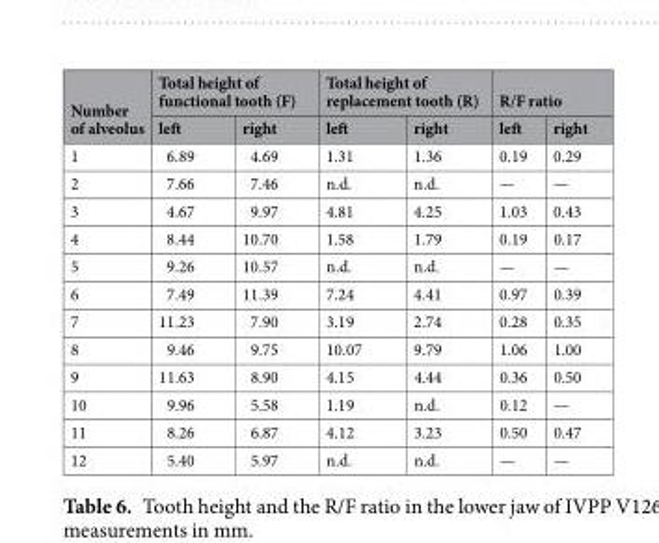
<table><thead><tr><td rowspan="2">Number of alveolus</td><td colspan="2">Total height of functional tooth (F)</td><td colspan="2">Total height of replacement tooth (R)</td><td colspan="2">R/F ratio</td></tr><tr><td>left</td><td>right</td><td>left</td><td>right</td><td>left</td><td>right</td></tr></thead><tbody><tr><td>1</td><td>6.89</td><td>4.69</td><td>1.31</td><td>1.36</td><td>0.19</td><td>0.29</td></tr><tr><td>2</td><td>7.66</td><td>7.46</td><td>n.d.</td><td>n.d.</td><td>—</td><td>—</td></tr><tr><td>3</td><td>4.67</td><td>9.97</td><td>4.81</td><td>4.25</td><td>1.03</td><td>0.43</td></tr><tr><td>4</td><td>8.44</td><td>10.70</td><td>1.58</td><td>1.79</td><td>0.19</td><td>0.17</td></tr><tr><td>5</td><td>9.26</td><td>10.57</td><td>n.d.</td><td>n.d.</td><td>—</td><td>—</td></tr><tr><td>6</td><td>7.49</td><td>11.39</td><td>7.24</td><td>4.41</td><td>0.97</td><td>0.39</td></tr><tr><td>7</td><td>11.23</td><td>7.90</td><td>3.19</td><td>2.74</td><td>0.28</td><td>0.35</td></tr><tr><td>8</td><td>9.46</td><td>9.75</td><td>10.07</td><td>9.79</td><td>1.06</td><td>1.00</td></tr><tr><td>9</td><td>11.63</td><td>8.90</td><td>4.15</td><td>4.44</td><td>0.36</td><td>0.50</td></tr><tr><td>10</td><td>9.96</td><td>5.58</td><td>1.19</td><td>n.d.</td><td>0.12</td><td>—</td></tr><tr><td>11</td><td>8.26</td><td>6.87</td><td>4.12</td><td>3.23</td><td>0.50</td><td>0.47</td></tr><tr><td>12</td><td>5.40</td><td>5.97</td><td>n.d.</td><td>n.d.</td><td>—</td><td>—</td></tr></tbody></table>